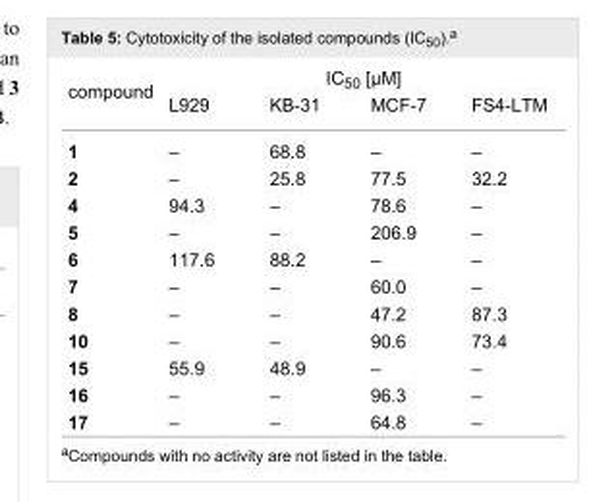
<table><tbody><tr><td rowspan="2">compound</td><td colspan="4">IC<sub>50</sub> [µM]</td></tr><tr><td>L929</td><td>KB-31</td><td>MCF-7</td><td>FS4-LTM</td></tr><tr><td>1</td><td>–</td><td>68.8</td><td>–</td><td>–</td></tr><tr><td>2</td><td>–</td><td>25.8</td><td>77.5</td><td>32.2</td></tr><tr><td>4</td><td>94.3</td><td>–</td><td>78.6</td><td>–</td></tr><tr><td>5</td><td>–</td><td>–</td><td>206.9</td><td>–</td></tr><tr><td>6</td><td>117.6</td><td>88.2</td><td>–</td><td>–</td></tr><tr><td>7</td><td>–</td><td>–</td><td>60.0</td><td>–</td></tr><tr><td>8</td><td>–</td><td>–</td><td>47.2</td><td>87.3</td></tr><tr><td>10</td><td>–</td><td>–</td><td>90.6</td><td>73.4</td></tr><tr><td>15</td><td>55.9</td><td>48.9</td><td>–</td><td>–</td></tr><tr><td>16</td><td>–</td><td>–</td><td>96.3</td><td>–</td></tr><tr><td>17</td><td>–</td><td>–</td><td>64.8</td><td>–</td></tr></tbody></table>